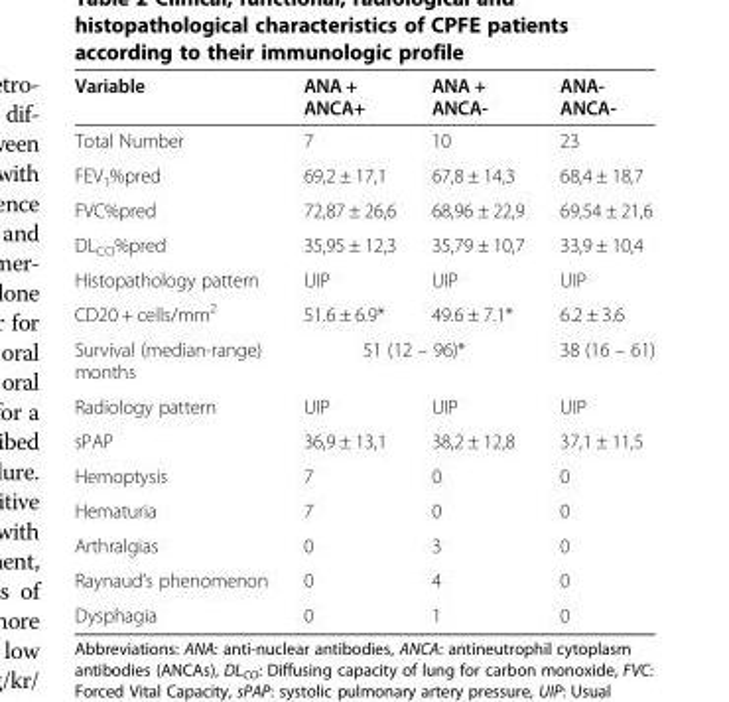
<table><thead><tr><td>Variable</td><td>ANA + ANCA+</td><td>ANA + ANCA-</td><td>ANA- ANCA-</td></tr></thead><tbody><tr><td>Total Number</td><td>7</td><td>10</td><td>23</td></tr><tr><td>FEV<sub>1</sub>%pred</td><td>69,2 ± 17,1</td><td>67,8 ± 14,3</td><td>68,4 ± 18,7</td></tr><tr><td>FVC%pred</td><td>72,87 ± 26,6</td><td>68,96 ± 22,9</td><td>69,54 ± 21,6</td></tr><tr><td>DL<sub>CO</sub>%pred</td><td>35,95 ± 12,3</td><td>35,79 ± 10,7</td><td>33,9 ± 10,4</td></tr><tr><td>Histopathology pattern</td><td>UIP</td><td>UIP</td><td>UIP</td></tr><tr><td>CD20 + cells/mm<sup>2</sup></td><td>51.6 ± 6.9*</td><td>49.6 ± 7.1*</td><td>6.2 ± 3.6</td></tr><tr><td>Survival (median-range) months</td><td colspan="2">51 (12 – 96)*</td><td>38 (16 – 61)</td></tr><tr><td>Radiology pattern</td><td>UIP</td><td>UIP</td><td>UIP</td></tr><tr><td>sPAP</td><td>36,9 ± 13,1</td><td>38,2 ± 12,8</td><td>37,1 ± 11,5</td></tr><tr><td>Hemoptysis</td><td>7</td><td>0</td><td>0</td></tr><tr><td>Hematuria</td><td>7</td><td>0</td><td>0</td></tr><tr><td>Arthralgias</td><td>0</td><td>3</td><td>0</td></tr><tr><td>Raynaud’s phenomenon</td><td>0</td><td>4</td><td>0</td></tr><tr><td>Dysphagia</td><td>0</td><td>1</td><td>0</td></tr></tbody></table>